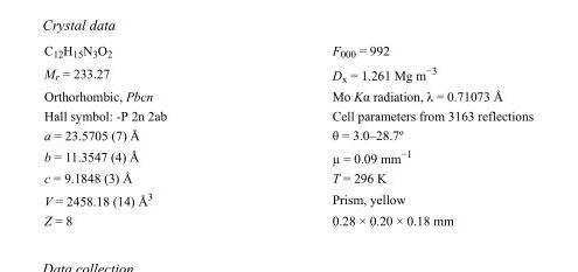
<table><tbody><tr><td>C<sub>12</sub>H<sub>15</sub>N<sub>3</sub>O<sub>2</sub></td><td>F000 = 992</td></tr><tr><td>M<sub>r</sub> = 233.27</td><td>D<sub>x</sub> = 1.261 Mg m<sup>−3</sup></td></tr><tr><td>Orthorhombic, Pbcn</td><td>Mo Kα radiation, λ = 0.71073 Å</td></tr><tr><td>Hall symbol: -P 2n 2ab</td><td>Cell parameters from 3163 reflections</td></tr><tr><td>a = 23.5705 (7) Å</td><td>θ = 3.0–28.7º</td></tr><tr><td>b = 11.3547 (4) Å</td><td>µ = 0.09 mm<sup>−1</sup></td></tr><tr><td>c = 9.1848 (3) Å</td><td>T = 296 K</td></tr><tr><td>V = 2458.18 (14) Å<sup>3</sup></td><td>Prism, yellow</td></tr><tr><td>Z = 8</td><td>0.28 × 0.20 × 0.18 mm</td></tr></tbody></table>